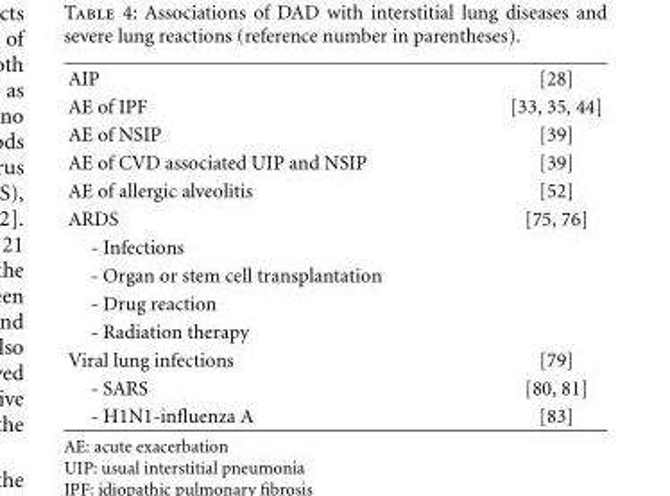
<table><tbody><tr><td>AIP</td><td>[28]</td></tr><tr><td>AE of IPF</td><td>[33, 35, 44]</td></tr><tr><td>AE of NSIP</td><td>[39]</td></tr><tr><td>AE of CVD associated UIP and NSIP</td><td>[39]</td></tr><tr><td>AE of allergic alveolitis</td><td>[52]</td></tr><tr><td>ARDS</td><td>[75, 76]</td></tr><tr><td colspan="2">- Infections</td></tr><tr><td colspan="2">- Organ or stem cell transplantation</td></tr><tr><td colspan="2">- Drug reaction</td></tr><tr><td colspan="2">- Radiation therapy</td></tr><tr><td>Viral lung infections</td><td>[79]</td></tr><tr><td>- SARS</td><td>[80, 81]</td></tr><tr><td>- H1N1-influenza A</td><td>[83]</td></tr></tbody></table>